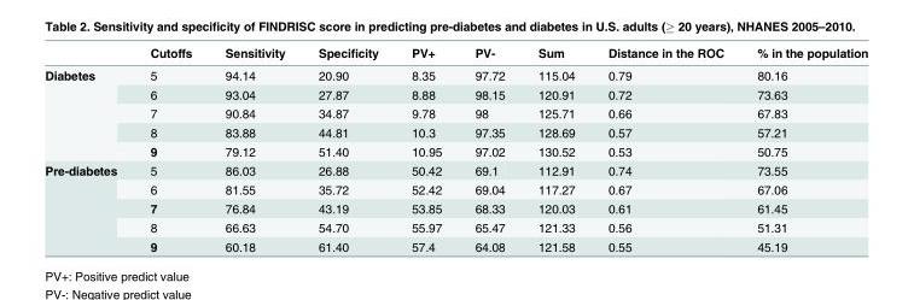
<table><thead><tr><td></td><td>Cutoffs</td><td>Sensitivity</td><td>Specificity</td><td>PV+</td><td>PV-</td><td>Sum</td><td>Distance in the ROC</td><td>% in the population</td></tr></thead><tbody><tr><td rowspan="5">Diabetes</td><td>5</td><td>94.14</td><td>20.90</td><td>8.35</td><td>97.72</td><td>115.04</td><td>0.79</td><td>80.16</td></tr><tr><td>6</td><td>93.04</td><td>27.87</td><td>8.88</td><td>98.15</td><td>120.91</td><td>0.72</td><td>73.63</td></tr><tr><td>7</td><td>90.84</td><td>34.87</td><td>9.78</td><td>98</td><td>125.71</td><td>0.66</td><td>67.83</td></tr><tr><td>8</td><td>83.88</td><td>44.81</td><td>10.3</td><td>97.35</td><td>128.69</td><td>0.57</td><td>57.21</td></tr><tr><td>9</td><td>79.12</td><td>51.40</td><td>10.95</td><td>97.02</td><td>130.52</td><td>0.53</td><td>50.75</td></tr><tr><td rowspan="5">Pre-diabetes</td><td>5</td><td>86.03</td><td>26.88</td><td>50.42</td><td>69.1</td><td>112.91</td><td>0.74</td><td>73.55</td></tr><tr><td>6</td><td>81.55</td><td>35.72</td><td>52.42</td><td>69.04</td><td>117.27</td><td>0.67</td><td>67.06</td></tr><tr><td>7</td><td>76.84</td><td>43.19</td><td>53.85</td><td>68.33</td><td>120.03</td><td>0.61</td><td>61.45</td></tr><tr><td>8</td><td>66.63</td><td>54.70</td><td>55.97</td><td>65.47</td><td>121.33</td><td>0.56</td><td>51.31</td></tr><tr><td>9</td><td>60.18</td><td>61.40</td><td>57.4</td><td>64.08</td><td>121.58</td><td>0.55</td><td>45.19</td></tr></tbody></table>